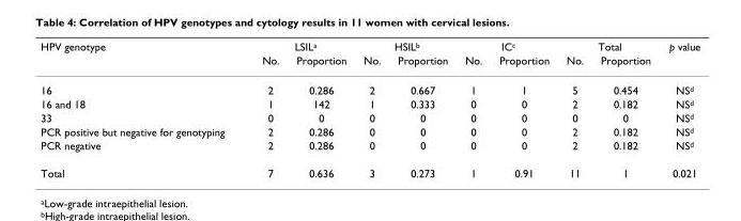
<table><thead><tr><td rowspan="2">HPV genotype</td><td colspan="2">LSIL<sup>a</sup></td><td colspan="2">HSIL<sup>b</sup></td><td colspan="2">IC<sup>c</sup></td><td colspan="2">Total</td><td rowspan="2">p value</td></tr><tr><td>No.</td><td>Proportion</td><td>No.</td><td>Proportion</td><td>No.</td><td>Proportion</td><td>No.</td><td>Proportion</td></tr></thead><tbody><tr><td>16</td><td>2</td><td>0.286</td><td>2</td><td>0.667</td><td>1</td><td>1</td><td>5</td><td>0.454</td><td>NS<sup>d</sup></td></tr><tr><td>16 and 18</td><td>1</td><td>142</td><td>1</td><td>0.333</td><td>0</td><td>0</td><td>2</td><td>0.182</td><td>NS<sup>d</sup></td></tr><tr><td>33</td><td>0</td><td>0</td><td>0</td><td>0</td><td>0</td><td>0</td><td>0</td><td>0</td><td>NS<sup>d</sup></td></tr><tr><td>PCR positive but negative for genotyping</td><td>2</td><td>0.286</td><td>0</td><td>0</td><td>0</td><td>0</td><td>2</td><td>0.182</td><td>NS<sup>d</sup></td></tr><tr><td>PCR negative</td><td>2</td><td>0.286</td><td>0</td><td>0</td><td>0</td><td>0</td><td>2</td><td>0.182</td><td>NS<sup>d</sup></td></tr><tr><td>Total</td><td>7</td><td>0.636</td><td>3</td><td>0.273</td><td>1</td><td>0.91</td><td>11</td><td>1</td><td>0.021</td></tr></tbody></table>